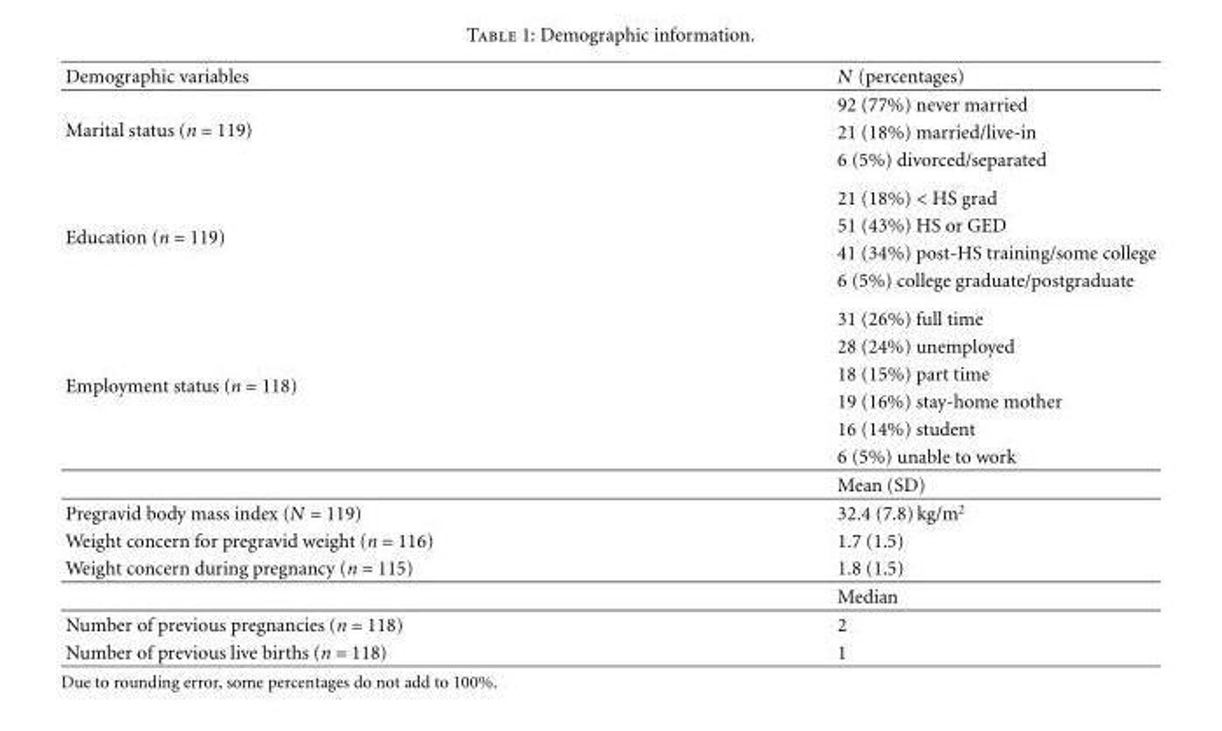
<table><thead><tr><td>Demographic variables</td><td>N (percentages)</td></tr></thead><tbody><tr><td rowspan="3">Marital status (n = 119)</td><td>92 (77%) never married</td></tr><tr><td>21 (18%) married/live-in</td></tr><tr><td>6 (5%) divorced/separated</td></tr><tr><td rowspan="4">Education (n = 119)</td><td>21 (18%) &lt; HS grad</td></tr><tr><td>51 (43%) HS or GED</td></tr><tr><td>41 (34%) post-HS training/some college</td></tr><tr><td>6 (5%) college graduate/postgraduate</td></tr><tr><td rowspan="7">Employment status (n = 118)</td><td>31 (26%) full time</td></tr><tr><td>28 (24%) unemployed</td></tr><tr><td>18 (15%) part time</td></tr><tr><td>19 (16%) stay-home mother</td></tr><tr><td>16 (14%) student</td></tr><tr><td>6 (5%) unable to work</td></tr><tr><td>Mean (SD)</td></tr><tr><td>Pregravid body mass index (N = 119)</td><td>32.4 (7.8) kg/m<sup>2</sup></td></tr><tr><td>Weight concern for pregravid weight (n = 116)</td><td>1.7 (1.5)</td></tr><tr><td rowspan="2">Weight concern during pregnancy (n = 115)</td><td>1.8 (1.5)</td></tr><tr><td>Median</td></tr><tr><td>Number of previous pregnancies (n = 118)</td><td>2</td></tr><tr><td>Number of previous live births (n = 118)</td><td>1</td></tr></tbody></table>